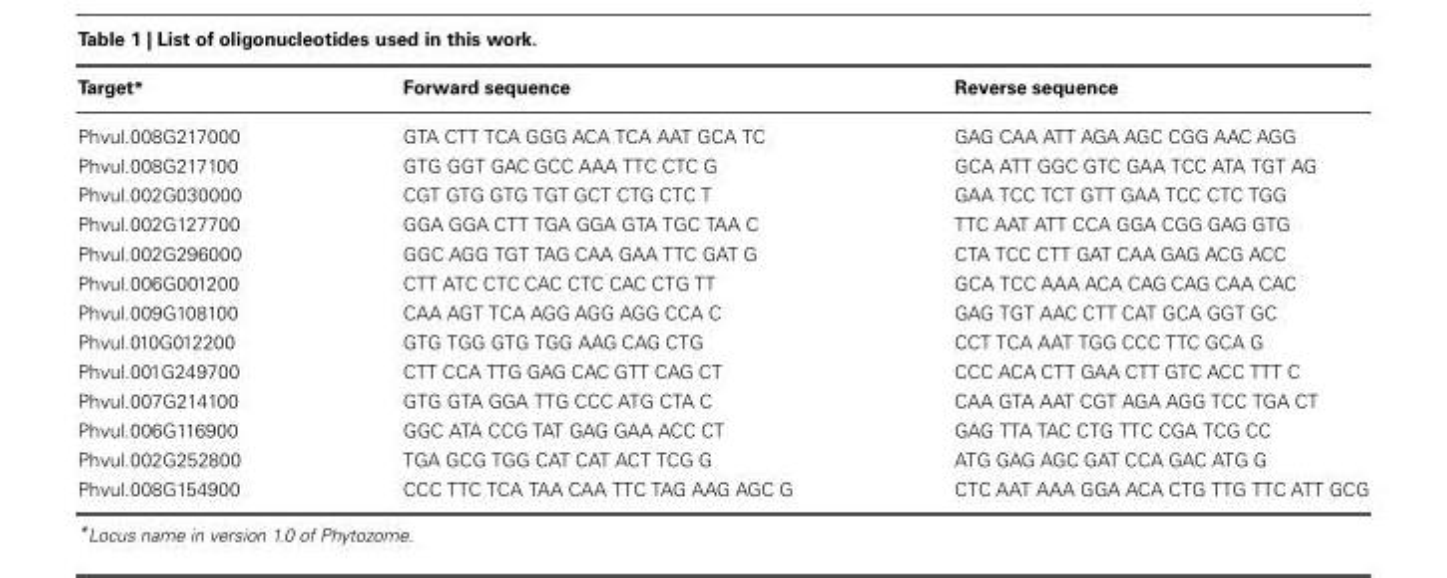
<table><thead><tr><td>Target*</td><td>Forward sequence</td><td>Reverse sequence</td></tr></thead><tbody><tr><td>Phvul.008G217000</td><td>GTA CTT TCA GGG ACA TCA AAT GCA TC</td><td>GAG CAA ATT AGA AGC CGG AAC AGG</td></tr><tr><td>Phvul.008G217100</td><td>GTG GGT GAC GCC AAA TTC CTC G</td><td>GCA ATT GGC GTC GAA TCC ATA TGT AG</td></tr><tr><td>Phvul.002G030000</td><td>CGT GTG GTG TGT GCT CTG CTC T</td><td>GAA TCC TCT GTT GAA TCC CTC TGG</td></tr><tr><td>Phvul.002G127700</td><td>GGA GGA CTT TGA GGA GTA TGC TAA C</td><td>TTC AAT ATT CCA GGA CGG GAG GTG</td></tr><tr><td>Phvul.002G296000</td><td>GGC AGG TGT TAG CAA GAA TTC GAT G</td><td>CTA TCC CTT GAT CAA GAG ACG ACC</td></tr><tr><td>Phvul.006G001200</td><td>CTT ATC CTC CAC CTC CAC CTG TT</td><td>GCA TCC AAA ACA CAG CAG CAA CAC</td></tr><tr><td>Phvul.009G108100</td><td>CAA AGT TCA AGG AGG AGG CCA C</td><td>GAG TGT AAC CTT CAT GCA GGT GC</td></tr><tr><td>Phvul.010G012200</td><td>GTG TGG GTG TGG AAG CAG CTG</td><td>CCT TCA AAT TGG CCC TTC GCA G</td></tr><tr><td>Phvul.001G249700</td><td>CTT CCA TTG GAG CAC GTT CAG CT</td><td>CCC ACA CTT GAA CTT GTC ACC TTT C</td></tr><tr><td>Phvul.007G214100</td><td>GTG GTA GGA TTG CCC ATG CTA C</td><td>CAA GTA AAT CGT AGA AGG TCC TGA CT</td></tr><tr><td>Phvul.006G116900</td><td>GGC ATA CCG TAT GAG GAA ACC CT</td><td>GAG TTA TAC CTG TTC CGA TCG CC</td></tr><tr><td>Phvul.002G252800</td><td>TGA GCG TGG CAT CAT ACT TCG G</td><td>ATG GAG AGC GAT CCA GAC ATG G</td></tr><tr><td>Phvul.008G154900</td><td>CCC TTC TCA TAA CAA TTC TAG AAG AGC G</td><td>CTC AAT AAA GGA ACA CTG TTG TTC ATT GCG</td></tr></tbody></table>